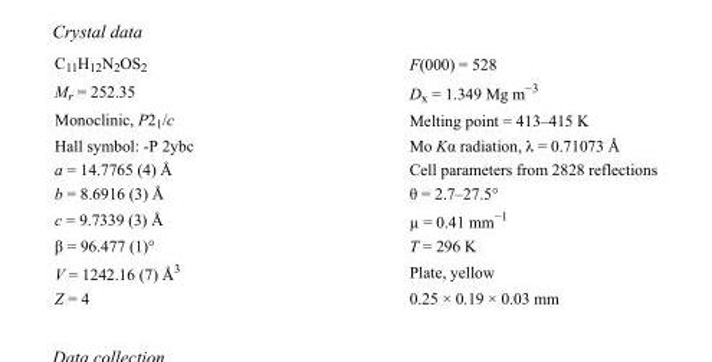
<table><tbody><tr><td>C<sub>11</sub>H<sub>12</sub>N<sub>2</sub>OS<sub>2</sub></td><td>F(000) = 528</td></tr><tr><td>M<sub>r</sub> = 252.35</td><td>D<sub>x</sub> = 1.349 Mg m<sup>−3</sup></td></tr><tr><td>Monoclinic, P2<sub>1</sub>/c</td><td>Melting point = 413–415 K</td></tr><tr><td>Hall symbol: -P 2ybc</td><td>Mo Kα radiation, λ = 0.71073 Å</td></tr><tr><td>a = 14.7765 (4) Å</td><td>Cell parameters from 2828 reflections</td></tr><tr><td>b = 8.6916 (3) Å</td><td>θ = 2.7–27.5°</td></tr><tr><td>c = 9.7339 (3) Å</td><td>µ = 0.41 mm<sup>−1</sup></td></tr><tr><td>β = 96.477 (1)°</td><td>T = 296 K</td></tr><tr><td>V = 1242.16 (7) Å<sup>3</sup></td><td>Plate, yellow</td></tr><tr><td>Z = 4</td><td>0.25 × 0.19 × 0.03 mm</td></tr></tbody></table>